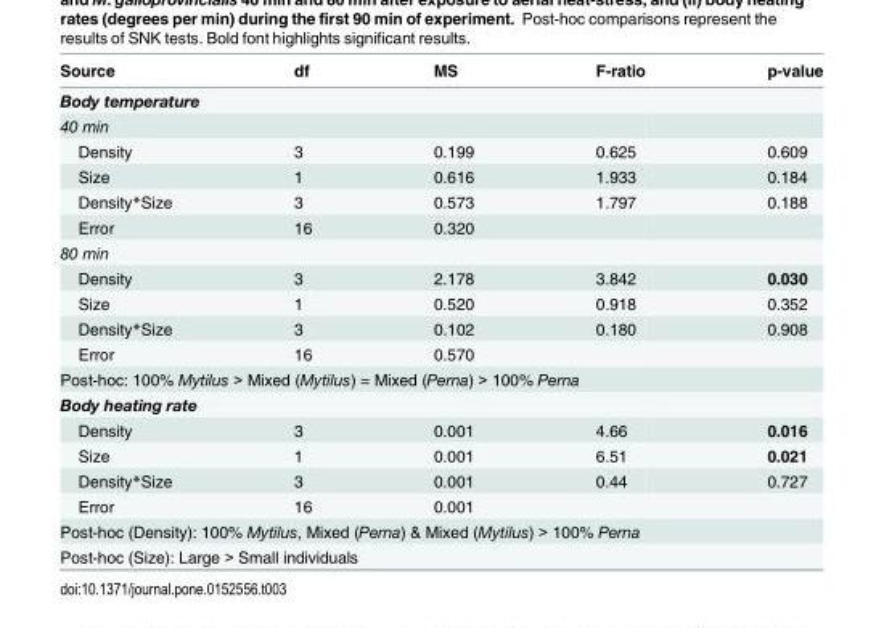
<table><thead><tr><td>Source</td><td>df</td><td>MS</td><td>F-ratio</td><td>p-value</td></tr></thead><tbody><tr><td colspan="5">Body temperature</td></tr><tr><td colspan="5">40 min</td></tr><tr><td>Density</td><td>3</td><td>0.199</td><td>0.625</td><td>0.609</td></tr><tr><td>Size</td><td>1</td><td>0.616</td><td>1.933</td><td>0.184</td></tr><tr><td>Density*Size</td><td>3</td><td>0.573</td><td>1.797</td><td>0.188</td></tr><tr><td>Error</td><td>16</td><td>0.320</td><td></td><td></td></tr><tr><td colspan="5">80 min</td></tr><tr><td>Density</td><td>3</td><td>2.178</td><td>3.842</td><td>0.030</td></tr><tr><td>Size</td><td>1</td><td>0.520</td><td>0.918</td><td>0.352</td></tr><tr><td>Density*Size</td><td>3</td><td>0.102</td><td>0.180</td><td>0.908</td></tr><tr><td>Error</td><td>16</td><td>0.570</td><td></td><td></td></tr><tr><td colspan="5">Post-hoc: 100% Mytilus &gt; Mixed (Mytilus) = Mixed (Perna) &gt; 100% Perna</td></tr><tr><td colspan="5">Body heating rate</td></tr><tr><td>Density</td><td>3</td><td>0.001</td><td>4.66</td><td>0.016</td></tr><tr><td>Size</td><td>1</td><td>0.001</td><td>6.51</td><td>0.021</td></tr><tr><td>Density*Size</td><td>3</td><td>0.001</td><td>0.44</td><td>0.727</td></tr><tr><td>Error</td><td>16</td><td>0.001</td><td></td><td></td></tr><tr><td colspan="5">Post-hoc (Density): 100% Mytilus, Mixed (Perna) &amp; Mixed (Mytilus) &gt; 100% Perna</td></tr><tr><td colspan="5">Post-hoc (Size): Large &gt; Small individuals</td></tr></tbody></table>